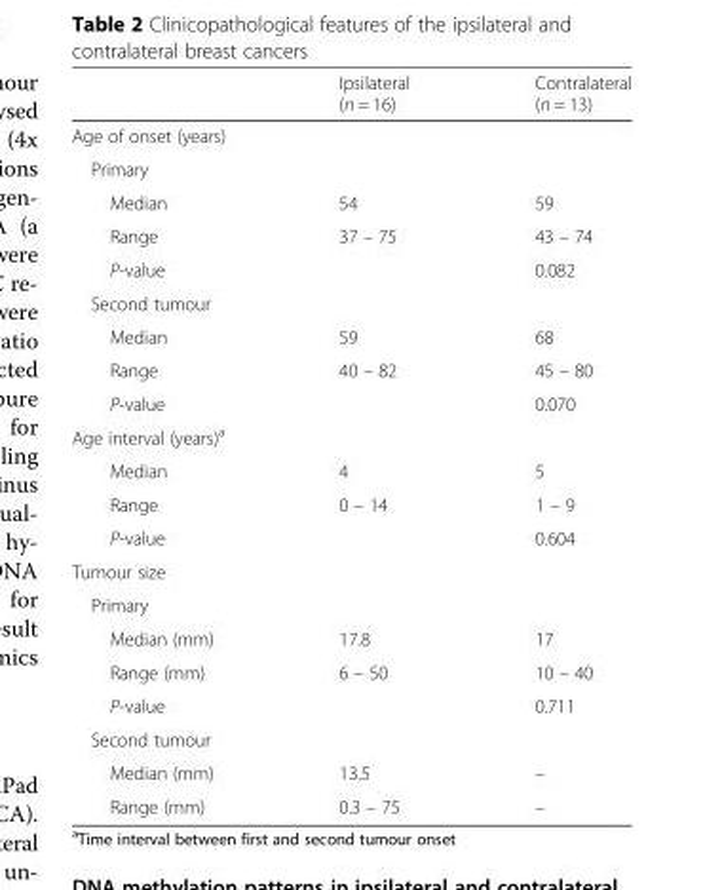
<table><thead><tr><td></td><td>Ipsilateral (n = 16)</td><td>Contralateral (n = 13)</td></tr></thead><tbody><tr><td colspan="3">Age of onset (years)</td></tr><tr><td colspan="3">Primary</td></tr><tr><td>Median</td><td>54</td><td>59</td></tr><tr><td>Range</td><td>37 – 75</td><td>43 – 74</td></tr><tr><td>P-value</td><td></td><td>0.082</td></tr><tr><td colspan="3">Second tumour</td></tr><tr><td>Median</td><td>59</td><td>68</td></tr><tr><td>Range</td><td>40 – 82</td><td>45 – 80</td></tr><tr><td>P-value</td><td></td><td>0.070</td></tr><tr><td colspan="3">Age interval (years)<sup>a</sup></td></tr><tr><td>Median</td><td>4</td><td>5</td></tr><tr><td>Range</td><td>0 – 14</td><td>1 – 9</td></tr><tr><td>P-value</td><td></td><td>0.604</td></tr><tr><td colspan="3">Tumour size</td></tr><tr><td colspan="3">Primary</td></tr><tr><td>Median (mm)</td><td>17.8</td><td>17</td></tr><tr><td>Range (mm)</td><td>6 – 50</td><td>10 – 40</td></tr><tr><td>P-value</td><td></td><td>0.711</td></tr><tr><td colspan="3">Second tumour</td></tr><tr><td>Median (mm)</td><td>13.5</td><td>–</td></tr><tr><td>Range (mm)</td><td>0.3 – 75</td><td>–</td></tr></tbody></table>